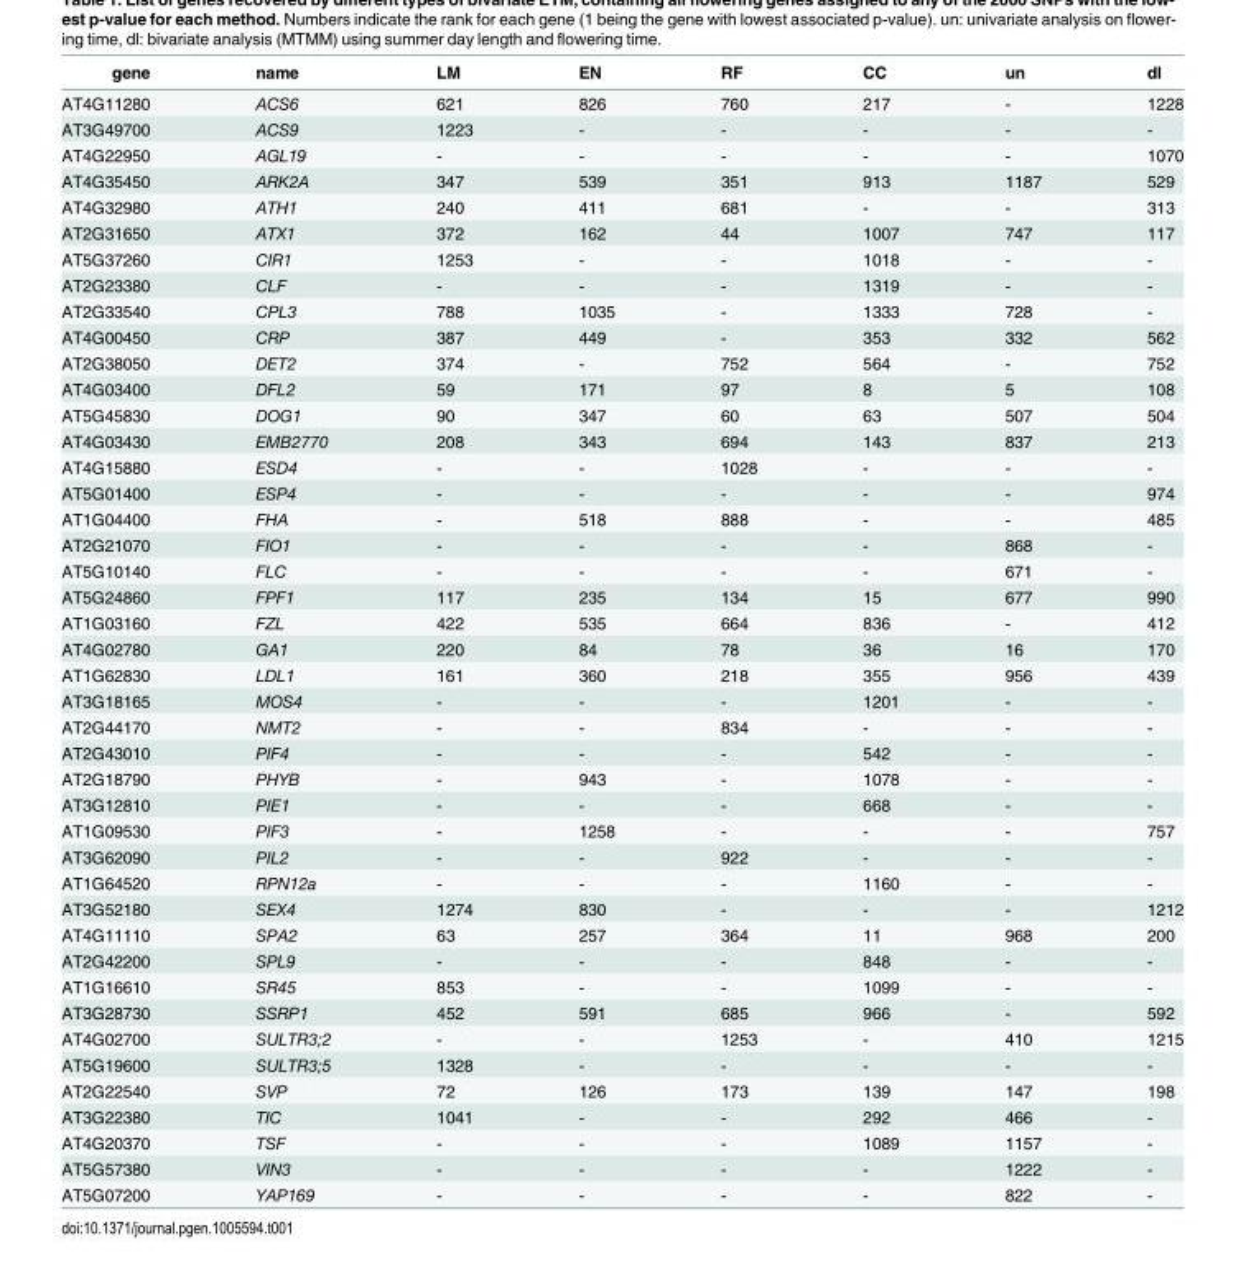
<table><thead><tr><td>gene</td><td>name</td><td>LM</td><td>EN</td><td>RF</td><td>CC</td><td>un</td><td>dl</td></tr></thead><tbody><tr><td>AT4G11280</td><td>ACS6</td><td>621</td><td>826</td><td>760</td><td>217</td><td>-</td><td>1228</td></tr><tr><td>AT3G49700</td><td>ACS9</td><td>1223</td><td>-</td><td>-</td><td>-</td><td>-</td><td>-</td></tr><tr><td>AT4G22950</td><td>AGL19</td><td>-</td><td>-</td><td>-</td><td>-</td><td>-</td><td>1070</td></tr><tr><td>AT4G35450</td><td>ARK2A</td><td>347</td><td>539</td><td>351</td><td>913</td><td>1187</td><td>529</td></tr><tr><td>AT4G32980</td><td>ATH1</td><td>240</td><td>411</td><td>681</td><td>-</td><td>-</td><td>313</td></tr><tr><td>AT2G31650</td><td>ATX1</td><td>372</td><td>162</td><td>44</td><td>1007</td><td>747</td><td>117</td></tr><tr><td>AT5G37260</td><td>CIR1</td><td>1253</td><td>-</td><td>-</td><td>1018</td><td>-</td><td>-</td></tr><tr><td>AT2G23380</td><td>CLF</td><td>-</td><td>-</td><td>-</td><td>1319</td><td>-</td><td>-</td></tr><tr><td>AT2G33540</td><td>CPL3</td><td>788</td><td>1035</td><td>-</td><td>1333</td><td>728</td><td>-</td></tr><tr><td>AT4G00450</td><td>CRP</td><td>387</td><td>449</td><td>-</td><td>353</td><td>332</td><td>562</td></tr><tr><td>AT2G38050</td><td>DET2</td><td>374</td><td>-</td><td>752</td><td>564</td><td>-</td><td>752</td></tr><tr><td>AT4G03400</td><td>DFL2</td><td>59</td><td>171</td><td>97</td><td>8</td><td>5</td><td>108</td></tr><tr><td>AT5G45830</td><td>DOG1</td><td>90</td><td>347</td><td>60</td><td>63</td><td>507</td><td>504</td></tr><tr><td>AT4G03430</td><td>EMB2770</td><td>208</td><td>343</td><td>694</td><td>143</td><td>837</td><td>213</td></tr><tr><td>AT4G15880</td><td>ESD4</td><td>-</td><td>-</td><td>1028</td><td>-</td><td>-</td><td>-</td></tr><tr><td>AT5G01400</td><td>ESP4</td><td>-</td><td>-</td><td>-</td><td>-</td><td>-</td><td>974</td></tr><tr><td>AT1G04400</td><td>FHA</td><td>-</td><td>518</td><td>888</td><td>-</td><td>-</td><td>485</td></tr><tr><td>AT2G21070</td><td>FIO1</td><td>-</td><td>-</td><td>-</td><td>-</td><td>868</td><td>-</td></tr><tr><td>AT5G10140</td><td>FLC</td><td>-</td><td>-</td><td>-</td><td>-</td><td>671</td><td>-</td></tr><tr><td>AT5G24860</td><td>FPF1</td><td>117</td><td>235</td><td>134</td><td>15</td><td>677</td><td>990</td></tr><tr><td>AT1G03160</td><td>FZL</td><td>422</td><td>535</td><td>664</td><td>836</td><td>-</td><td>412</td></tr><tr><td>AT4G02780</td><td>GA1</td><td>220</td><td>84</td><td>78</td><td>36</td><td>16</td><td>170</td></tr><tr><td>AT1G62830</td><td>LDL1</td><td>161</td><td>360</td><td>218</td><td>355</td><td>956</td><td>439</td></tr><tr><td>AT3G18165</td><td>MOS4</td><td>-</td><td>-</td><td>-</td><td>1201</td><td>-</td><td>-</td></tr><tr><td>AT2G44170</td><td>NMT2</td><td>-</td><td>-</td><td>834</td><td>-</td><td>-</td><td>-</td></tr><tr><td>AT2G43010</td><td>PIF4</td><td>-</td><td>-</td><td>-</td><td>542</td><td>-</td><td>-</td></tr><tr><td>AT2G18790</td><td>PHYB</td><td>-</td><td>943</td><td>-</td><td>1078</td><td>-</td><td>-</td></tr><tr><td>AT3G12810</td><td>PIE1</td><td>-</td><td>-</td><td>-</td><td>668</td><td>-</td><td>-</td></tr><tr><td>AT1G09530</td><td>PIF3</td><td>-</td><td>1258</td><td>-</td><td>-</td><td>-</td><td>757</td></tr><tr><td>AT3G62090</td><td>PIL2</td><td>-</td><td>-</td><td>922</td><td>-</td><td>-</td><td>-</td></tr><tr><td>AT1G64520</td><td>RPN12a</td><td>-</td><td>-</td><td>-</td><td>1160</td><td>-</td><td>-</td></tr><tr><td>AT3G52180</td><td>SEX4</td><td>1274</td><td>830</td><td>-</td><td>-</td><td>-</td><td>1212</td></tr><tr><td>AT4G11110</td><td>SPA2</td><td>63</td><td>257</td><td>364</td><td>11</td><td>968</td><td>200</td></tr><tr><td>AT2G42200</td><td>SPL9</td><td>-</td><td>-</td><td>-</td><td>848</td><td>-</td><td>-</td></tr><tr><td>AT1G16610</td><td>SR45</td><td>853</td><td>-</td><td>-</td><td>1099</td><td>-</td><td>-</td></tr><tr><td>AT3G28730</td><td>SSRP1</td><td>452</td><td>591</td><td>685</td><td>966</td><td>-</td><td>592</td></tr><tr><td>AT4G02700</td><td>SULTR3;2</td><td>-</td><td>-</td><td>1253</td><td>-</td><td>410</td><td>1215</td></tr><tr><td>AT5G19600</td><td>SULTR3;5</td><td>1328</td><td>-</td><td>-</td><td>-</td><td>-</td><td>-</td></tr><tr><td>AT2G22540</td><td>SVP</td><td>72</td><td>126</td><td>173</td><td>139</td><td>147</td><td>198</td></tr><tr><td>AT3G22380</td><td>TIC</td><td>1041</td><td>-</td><td>-</td><td>292</td><td>466</td><td>-</td></tr><tr><td>AT4G20370</td><td>TSF</td><td>-</td><td>-</td><td>-</td><td>1089</td><td>1157</td><td>-</td></tr><tr><td>AT5G57380</td><td>VIN3</td><td>-</td><td>-</td><td>-</td><td>-</td><td>1222</td><td>-</td></tr><tr><td>AT5G07200</td><td>YAP169</td><td>-</td><td>-</td><td>-</td><td>-</td><td>822</td><td>-</td></tr></tbody></table>